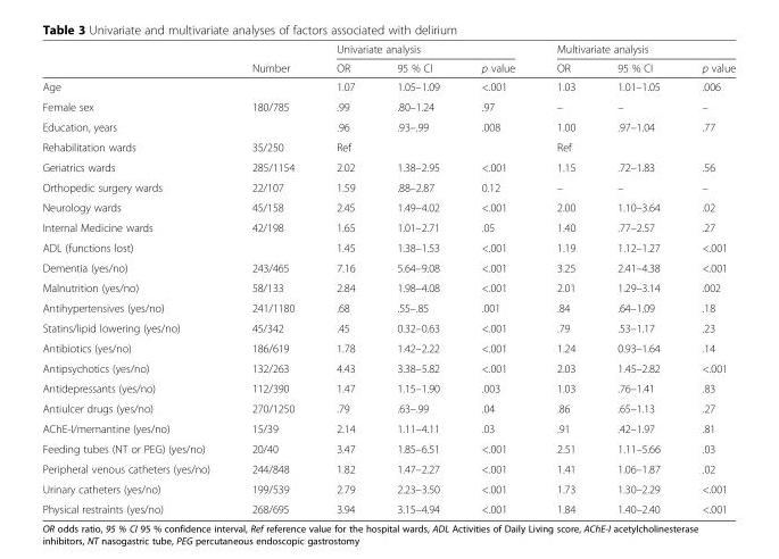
<table><thead><tr><td rowspan="2"></td><td rowspan="2">Number</td><td colspan="3">Univariate analysis</td><td colspan="3">Multivariate analysis</td></tr><tr><td>OR</td><td>95 % CI</td><td>p value</td><td>OR</td><td>95 % CI</td><td>p value</td></tr></thead><tbody><tr><td>Age</td><td></td><td>1.07</td><td>1.05–1.09</td><td>&lt;.001</td><td>1.03</td><td>1.01–1.05</td><td>.006</td></tr><tr><td>Female sex</td><td>180/785</td><td>.99</td><td>.80–1.24</td><td>.97</td><td>–</td><td>–</td><td>–</td></tr><tr><td>Education, years</td><td></td><td>.96</td><td>.93–.99</td><td>.008</td><td>1.00</td><td>.97–1.04</td><td>.77</td></tr><tr><td>Rehabilitation wards</td><td>35/250</td><td>Ref</td><td></td><td></td><td>Ref</td><td></td><td></td></tr><tr><td>Geriatrics wards</td><td>285/1154</td><td>2.02</td><td>1.38–2.95</td><td>&lt;.001</td><td>1.15</td><td>.72–1.83</td><td>.56</td></tr><tr><td>Orthopedic surgery wards</td><td>22/107</td><td>1.59</td><td>.88–2.87</td><td>0.12</td><td>–</td><td>–</td><td>–</td></tr><tr><td>Neurology wards</td><td>45/158</td><td>2.45</td><td>1.49–4.02</td><td>&lt;.001</td><td>2.00</td><td>1.10–3.64</td><td>.02</td></tr><tr><td>Internal Medicine wards</td><td>42/198</td><td>1.65</td><td>1.01–2.71</td><td>.05</td><td>1.40</td><td>.77–2.57</td><td>.27</td></tr><tr><td>ADL (functions lost)</td><td></td><td>1.45</td><td>1.38–1.53</td><td>&lt;.001</td><td>1.19</td><td>1.12–1.27</td><td>&lt;.001</td></tr><tr><td>Dementia (yes/no)</td><td>243/465</td><td>7.16</td><td>5.64–9.08</td><td>&lt;.001</td><td>3.25</td><td>2.41–4.38</td><td>&lt;.001</td></tr><tr><td>Malnutrition (yes/no)</td><td>58/133</td><td>2.84</td><td>1.98–4.08</td><td>&lt;.001</td><td>2.01</td><td>1.29–3.14</td><td>.002</td></tr><tr><td>Antihypertensives (yes/no)</td><td>241/1180</td><td>.68</td><td>.55–.85</td><td>.001</td><td>.84</td><td>.64–1.09</td><td>.18</td></tr><tr><td>Statins/lipid lowering (yes/no)</td><td>45/342</td><td>.45</td><td>0.32–0.63</td><td>&lt;.001</td><td>.79</td><td>.53–1.17</td><td>.23</td></tr><tr><td>Antibiotics (yes/no)</td><td>186/619</td><td>1.78</td><td>1.42–2.22</td><td>&lt;.001</td><td>1.24</td><td>0.93–1.64</td><td>.14</td></tr><tr><td>Antipsychotics (yes/no)</td><td>132/263</td><td>4.43</td><td>3.38–5.82</td><td>&lt;.001</td><td>2.03</td><td>1.45–2.82</td><td>&lt;.001</td></tr><tr><td>Antidepressants (yes/no)</td><td>112/390</td><td>1.47</td><td>1.15–1.90</td><td>.003</td><td>1.03</td><td>.76–1.41</td><td>.83</td></tr><tr><td>Antiulcer drugs (yes/no)</td><td>270/1250</td><td>.79</td><td>.63–.99</td><td>.04</td><td>.86</td><td>.65–1.13</td><td>.27</td></tr><tr><td>AChE-I/memantine (yes/no)</td><td>15/39</td><td>2.14</td><td>1.11–4.11</td><td>.03</td><td>.91</td><td>.42–1.97</td><td>.81</td></tr><tr><td>Feeding tubes (NT or PEG) (yes/no)</td><td>20/40</td><td>3.47</td><td>1.85–6.51</td><td>&lt;.001</td><td>2.51</td><td>1.11–5.66</td><td>.03</td></tr><tr><td>Peripheral venous catheters (yes/no)</td><td>244/848</td><td>1.82</td><td>1.47–2.27</td><td>&lt;.001</td><td>1.41</td><td>1.06–1.87</td><td>.02</td></tr><tr><td>Urinary catheters (yes/no)</td><td>199/539</td><td>2.79</td><td>2.23–3.50</td><td>&lt;.001</td><td>1.73</td><td>1.30–2.29</td><td>&lt;.001</td></tr><tr><td>Physical restraints (yes/no)</td><td>268/695</td><td>3.94</td><td>3.15–4.94</td><td>&lt;.001</td><td>1.84</td><td>1.40–2.40</td><td>&lt;.001</td></tr></tbody></table>